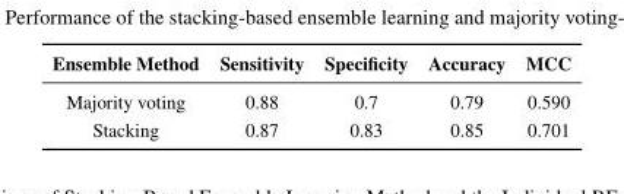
<table><thead><tr><td>Ensemble Method</td><td>Sensitivity</td><td>Specificity</td><td>Accuracy</td><td>MCC</td></tr></thead><tbody><tr><td>Majority voting</td><td>0.88</td><td>0.7</td><td>0.79</td><td>0.590</td></tr><tr><td>Stacking</td><td>0.87</td><td>0.83</td><td>0.85</td><td>0.701</td></tr></tbody></table>